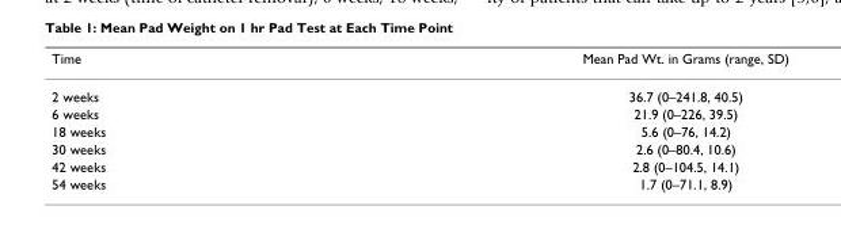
<table><thead><tr><td>Time</td><td>Mean Pad Wt. in Grams (range, SD)</td></tr></thead><tbody><tr><td>2 weeks</td><td>36.7 (0–241.8, 40.5)</td></tr><tr><td>6 weeks</td><td>21.9 (0–226, 39.5)</td></tr><tr><td>18 weeks</td><td>5.6 (0–76, 14.2)</td></tr><tr><td>30 weeks</td><td>2.6 (0–80.4, 10.6)</td></tr><tr><td>42 weeks</td><td>2.8 (0–104.5, 14.1)</td></tr><tr><td>54 weeks</td><td>1.7 (0–71.1, 8.9)</td></tr></tbody></table>